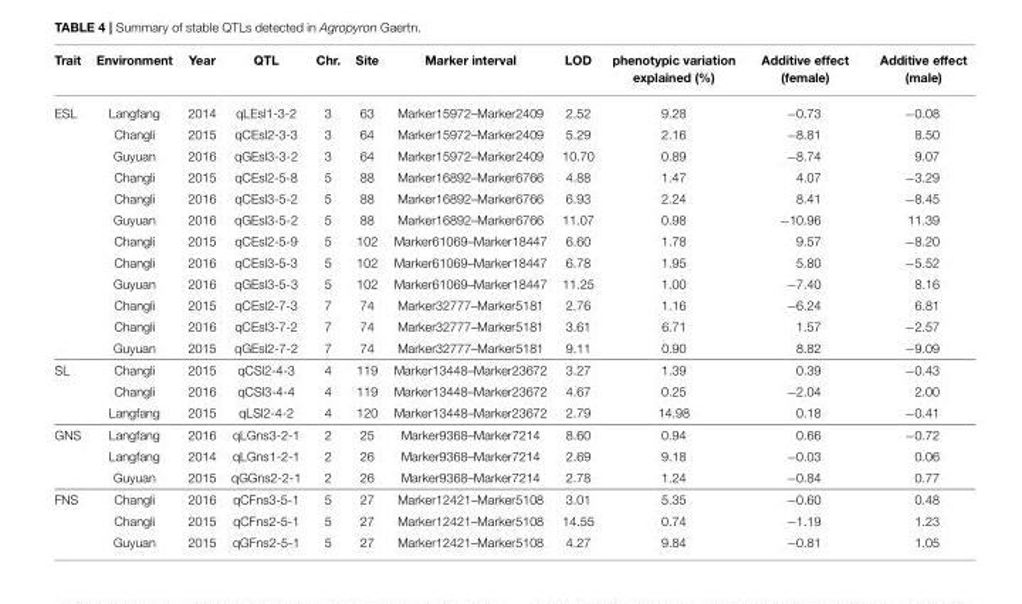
<table><thead><tr><td>Trait</td><td>Environment</td><td>Year</td><td>QTL</td><td>Chr.</td><td>Site</td><td>Marker interval</td><td>LOD</td><td>phenotypic variation explained (%)</td><td>Additive effect (female)</td><td>Additive effect (male)</td></tr></thead><tbody><tr><td rowspan="12">ESL</td><td>Langfang</td><td>2014</td><td>qLEsl1-3-2</td><td>3</td><td>63</td><td>Marker15972–Marker2409</td><td>2.52</td><td>9.28</td><td>−0.73</td><td>−0.08</td></tr><tr><td>Changli</td><td>2015</td><td>qCEsl2-3-3</td><td>3</td><td>64</td><td>Marker15972–Marker2409</td><td>5.29</td><td>2.16</td><td>−8.81</td><td>8.50</td></tr><tr><td>Guyuan</td><td>2016</td><td>qGEsl3-3-2</td><td>3</td><td>64</td><td>Marker15972–Marker2409</td><td>10.70</td><td>0.89</td><td>−8.74</td><td>9.07</td></tr><tr><td>Changli</td><td>2015</td><td>qCEsl2-5-8</td><td>5</td><td>88</td><td>Marker16892–Marker6766</td><td>4.88</td><td>1.47</td><td>4.07</td><td>−3.29</td></tr><tr><td>Changli</td><td>2016</td><td>qCEsl3-5-2</td><td>5</td><td>88</td><td>Marker16892–Marker6766</td><td>6.93</td><td>2.24</td><td>8.41</td><td>−8.45</td></tr><tr><td>Guyuan</td><td>2016</td><td>qGEsl3-5-2</td><td>5</td><td>88</td><td>Marker16892–Marker6766</td><td>11.07</td><td>0.98</td><td>−10.96</td><td>11.39</td></tr><tr><td>Changli</td><td>2015</td><td>qCEsl2-5-9</td><td>5</td><td>102</td><td>Marker61069–Marker18447</td><td>6.60</td><td>1.78</td><td>9.57</td><td>−8.20</td></tr><tr><td>Changli</td><td>2016</td><td>qCEsl3-5-3</td><td>5</td><td>102</td><td>Marker61069–Marker18447</td><td>6.78</td><td>1.95</td><td>5.80</td><td>−5.52</td></tr><tr><td>Guyuan</td><td>2016</td><td>qGEsl3-5-3</td><td>5</td><td>102</td><td>Marker61069–Marker18447</td><td>11.25</td><td>1.00</td><td>−7.40</td><td>8.16</td></tr><tr><td>Changli</td><td>2015</td><td>qCEsl2-7-3</td><td>7</td><td>74</td><td>Marker32777–Marker5181</td><td>2.76</td><td>1.16</td><td>−6.24</td><td>6.81</td></tr><tr><td>Changli</td><td>2016</td><td>qCEsl3-7-2</td><td>7</td><td>74</td><td>Marker32777–Marker5181</td><td>3.61</td><td>6.71</td><td>1.57</td><td>−2.57</td></tr><tr><td>Guyuan</td><td>2015</td><td>qGEsl2-7-2</td><td>7</td><td>74</td><td>Marker32777–Marker5181</td><td>9.11</td><td>0.90</td><td>8.82</td><td>−9.09</td></tr><tr><td rowspan="3">SL</td><td>Changli</td><td>2015</td><td>qCSl2-4-3</td><td>4</td><td>119</td><td>Marker13448–Marker23672</td><td>3.27</td><td>1.39</td><td>0.39</td><td>−0.43</td></tr><tr><td>Changli</td><td>2016</td><td>qCSl3-4-4</td><td>4</td><td>119</td><td>Marker13448–Marker23672</td><td>4.67</td><td>0.25</td><td>−2.04</td><td>2.00</td></tr><tr><td>Langfang</td><td>2015</td><td>qLSl2-4-2</td><td>4</td><td>120</td><td>Marker13448–Marker23672</td><td>2.79</td><td>14.98</td><td>0.18</td><td>−0.41</td></tr><tr><td rowspan="3">GNS</td><td>Langfang</td><td>2016</td><td>qLGns3-2-1</td><td>2</td><td>25</td><td>Marker9368–Marker7214</td><td>8.60</td><td>0.94</td><td>0.66</td><td>−0.72</td></tr><tr><td>Langfang</td><td>2014</td><td>qLGns1-2-1</td><td>2</td><td>26</td><td>Marker9368–Marker7214</td><td>2.69</td><td>9.18</td><td>−0.03</td><td>0.06</td></tr><tr><td>Guyuan</td><td>2015</td><td>qGGns2-2-1</td><td>2</td><td>26</td><td>Marker9368–Marker7214</td><td>2.78</td><td>1.24</td><td>−0.84</td><td>0.77</td></tr><tr><td rowspan="3">FNS</td><td>Changli</td><td>2016</td><td>qCFns3-5-1</td><td>5</td><td>27</td><td>Marker12421–Marker5108</td><td>3.01</td><td>5.35</td><td>−0.60</td><td>0.48</td></tr><tr><td>Changli</td><td>2015</td><td>qCFns2-5-1</td><td>5</td><td>27</td><td>Marker12421–Marker5108</td><td>14.55</td><td>0.74</td><td>−1.19</td><td>1.23</td></tr><tr><td>Guyuan</td><td>2015</td><td>qGFns2-5-1</td><td>5</td><td>27</td><td>Marker12421–Marker5108</td><td>4.27</td><td>9.84</td><td>−0.81</td><td>1.05</td></tr></tbody></table>